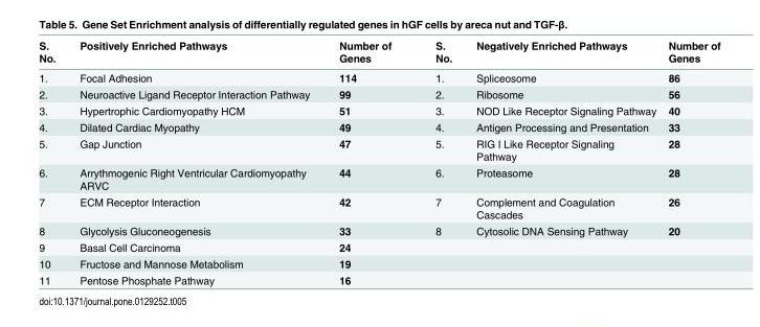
<table><thead><tr><td>S. No.</td><td>Positively Enriched Pathways</td><td>Number of Genes</td><td>S. No.</td><td>Negatively Enriched Pathways</td><td>Number of Genes</td></tr></thead><tbody><tr><td>1.</td><td>Focal Adhesion</td><td>114</td><td>1.</td><td>Spliceosome</td><td>86</td></tr><tr><td>2.</td><td>Neuroactive Ligand Receptor Interaction Pathway</td><td>99</td><td>2.</td><td>Ribosome</td><td>56</td></tr><tr><td>3.</td><td>Hypertrophic Cardiomyopathy HCM</td><td>51</td><td>3.</td><td>NOD Like Receptor Signaling Pathway</td><td>40</td></tr><tr><td>4.</td><td>Dilated Cardiac Myopathy</td><td>49</td><td>4.</td><td>Antigen Processing and Presentation</td><td>33</td></tr><tr><td>5.</td><td>Gap Junction</td><td>47</td><td>5.</td><td>RIG I Like Receptor Signaling Pathway</td><td>28</td></tr><tr><td>6.</td><td>Arrythmogenic Right Ventricular Cardiomyopathy ARVC</td><td>44</td><td>6.</td><td>Proteasome</td><td>28</td></tr><tr><td>7</td><td>ECM Receptor Interaction</td><td>42</td><td>7</td><td>Complement and Coagulation Cascades</td><td>26</td></tr><tr><td>8</td><td>Glycolysis Gluconeogenesis</td><td>33</td><td>8</td><td>Cytosolic DNA Sensing Pathway</td><td>20</td></tr><tr><td>9</td><td>Basal Cell Carcinoma</td><td>24</td><td></td><td></td><td></td></tr><tr><td>10</td><td>Fructose and Mannose Metabolism</td><td>19</td><td></td><td></td><td></td></tr><tr><td>11</td><td>Pentose Phosphate Pathway</td><td>16</td><td></td><td></td><td></td></tr></tbody></table>